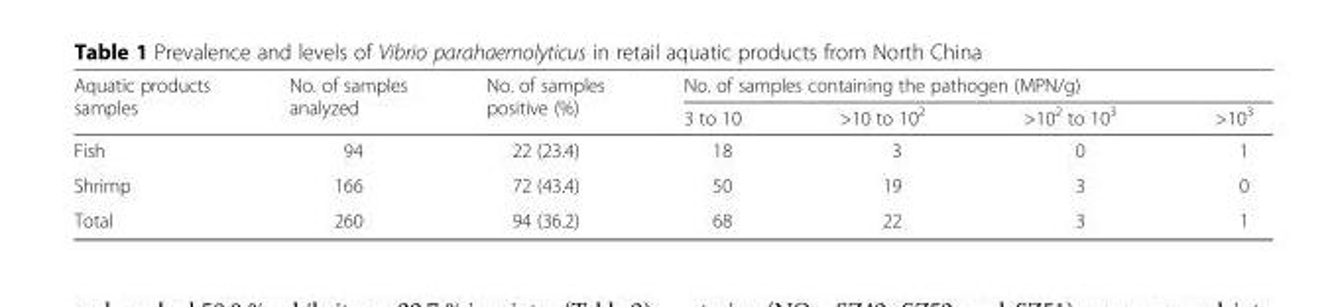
<table><thead><tr><td rowspan="2">Aquatic products samples</td><td rowspan="2">No. of samples analyzed</td><td rowspan="2">No. of samples positive (%)</td><td colspan="4">No. of samples containing the pathogen (MPN/g)</td></tr><tr><td>3 to 10</td><td>&gt;10 to 10<sup>2</sup></td><td>&gt;10<sup>2</sup> to 10<sup>3</sup></td><td>&gt;10<sup>3</sup></td></tr></thead><tbody><tr><td>Fish</td><td>94</td><td>22 (23.4)</td><td>18</td><td>3</td><td>0</td><td>1</td></tr><tr><td>Shrimp</td><td>166</td><td>72 (43.4)</td><td>50</td><td>19</td><td>3</td><td>0</td></tr><tr><td>Total</td><td>260</td><td>94 (36.2)</td><td>68</td><td>22</td><td>3</td><td>1</td></tr></tbody></table>